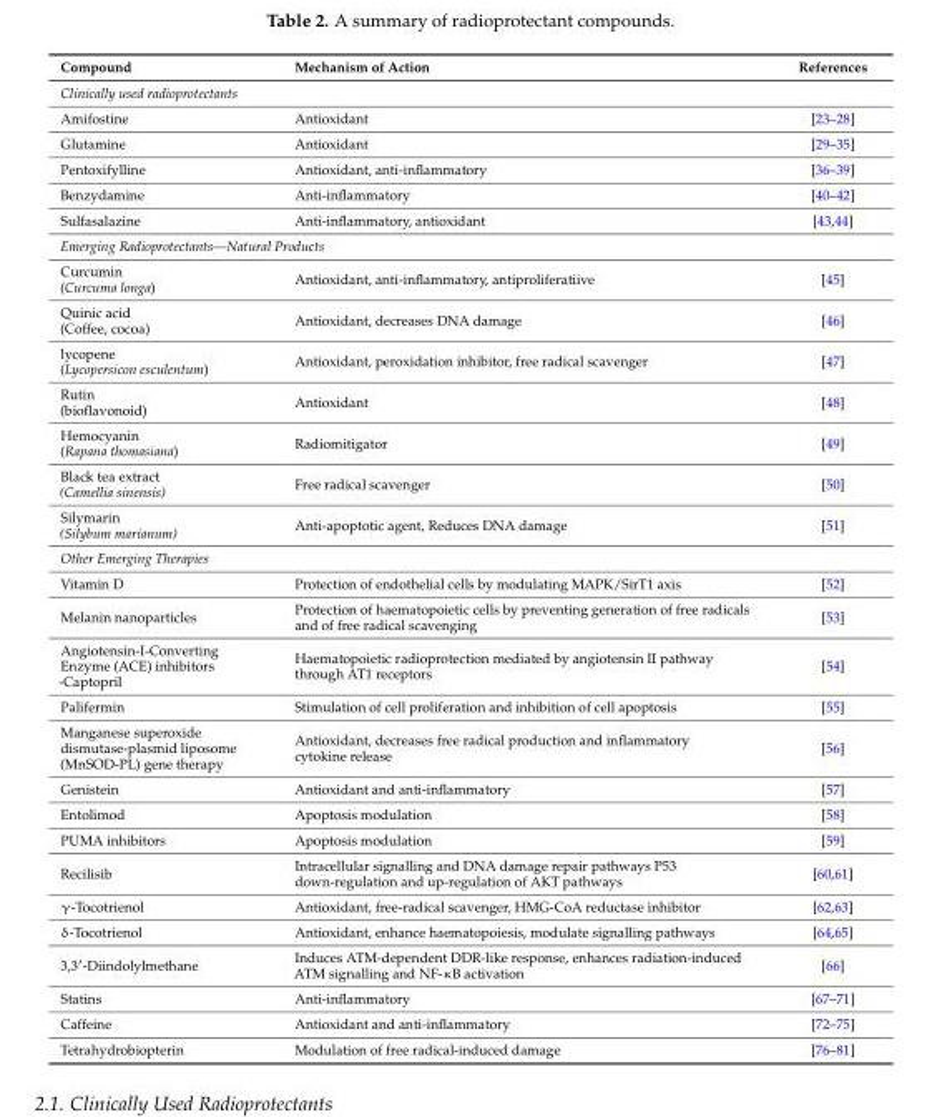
<table><thead><tr><td>Compound</td><td>Mechanism of Action</td><td>References</td></tr></thead><tbody><tr><td colspan="3">Clinically used radioprotectants</td></tr><tr><td>Amifostine</td><td>Antioxidant</td><td>[23–28]</td></tr><tr><td>Glutamine</td><td>Antioxidant</td><td>[29–35]</td></tr><tr><td>Pentoxifylline</td><td>Antioxidant, anti-inflammatory</td><td>[36–39]</td></tr><tr><td>Benzydamine</td><td>Anti-inflammatory</td><td>[40–42]</td></tr><tr><td>Sulfasalazine</td><td>Anti-inflammatory, antioxidant</td><td>[43,44]</td></tr><tr><td colspan="3">Emerging Radioprotectants—Natural Products</td></tr><tr><td>Curcumin (Curcuma longa)</td><td>Antioxidant, anti-inflammatory, antiproliferatiive</td><td>[45]</td></tr><tr><td>Quinic acid (Coffee, cocoa)</td><td>Antioxidant, decreases DNA damage</td><td>[46]</td></tr><tr><td>lycopene (Lycopersicon esculentum)</td><td>Antioxidant, peroxidation inhibitor, free radical scavenger</td><td>[47]</td></tr><tr><td>Rutin (bioflavonoid)</td><td>Antioxidant</td><td>[48]</td></tr><tr><td>Hemocyanin (Rapana thomasiana)</td><td>Radiomitigator</td><td>[49]</td></tr><tr><td>Black tea extract (Camellia sinensis)</td><td>Free radical scavenger</td><td>[50]</td></tr><tr><td>Silymarin (Silybum marianum)</td><td>Anti-apoptotic agent, Reduces DNA damage</td><td>[51]</td></tr><tr><td colspan="3">Other Emerging Therapies</td></tr><tr><td>Vitamin D</td><td>Protection of endothelial cells by modulating MAPK/SirT1 axis</td><td>[52]</td></tr><tr><td>Melanin nanoparticles</td><td>Protection of haematopoietic cells by preventing generation of free radicals and of free radical scavenging</td><td>[53]</td></tr><tr><td>Angiotensin-I-Converting Enzyme (ACE) inhibitors -Captopril</td><td>Haematopoietic radioprotection mediated by angiotensin II pathway through AT1 receptors</td><td>[54]</td></tr><tr><td>Palifermin</td><td>Stimulation of cell proliferation and inhibition of cell apoptosis</td><td>[55]</td></tr><tr><td>Manganese superoxide dismutase-plasmid liposome (MnSOD-PL) gene therapy</td><td>Antioxidant, decreases free radical production and inflammatory cytokine release</td><td>[56]</td></tr><tr><td>Genistein</td><td>Antioxidant and anti-inflammatory</td><td>[57]</td></tr><tr><td>Entolimod</td><td>Apoptosis modulation</td><td>[58]</td></tr><tr><td>PUMA inhibitors</td><td>Apoptosis modulation</td><td>[59]</td></tr><tr><td>Recilisib</td><td>Intracellular signalling and DNA damage repair pathways P53 down-regulation and up-regulation of AKT pathways</td><td>[60,61]</td></tr><tr><td>γ-Tocotrienol</td><td>Antioxidant, free-radical scavenger, HMG-CoA reductase inhibitor</td><td>[62,63]</td></tr><tr><td>δ-Tocotrienol</td><td>Antioxidant, enhance haematopoiesis, modulate signalling pathways</td><td>[64,65]</td></tr><tr><td>3,3′-Diindolylmethane</td><td>Induces ATM-dependent DDR-like response, enhances radiation-induced ATM signalling and NF-κB activation</td><td>[66]</td></tr><tr><td>Statins</td><td>Anti-inflammatory</td><td>[67–71]</td></tr><tr><td>Caffeine</td><td>Antioxidant and anti-inflammatory</td><td>[72–75]</td></tr><tr><td>Tetrahydrobiopterin</td><td>Modulation of free radical-induced damage</td><td>[76–81]</td></tr></tbody></table>